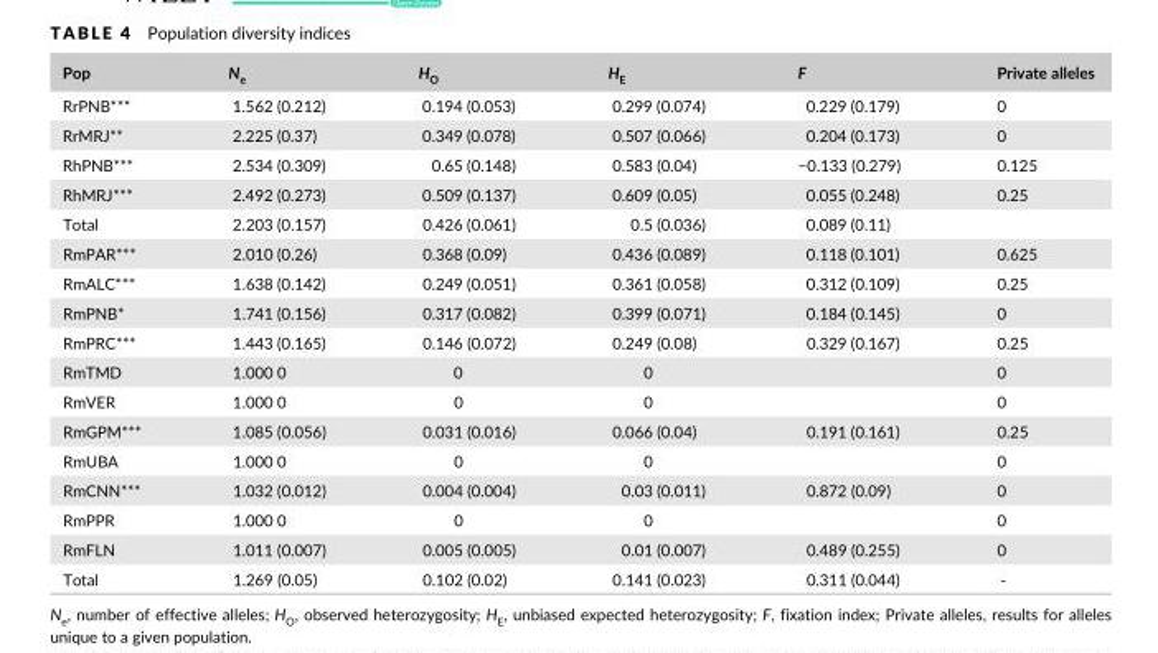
<table><thead><tr><td>Pop</td><td>N<sub>e</sub></td><td>H<sub>O</sub></td><td>H<sub>E</sub></td><td>F</td><td>Private alleles</td></tr></thead><tbody><tr><td>RrPNB***</td><td>1.562 (0.212)</td><td>0.194 (0.053)</td><td>0.299 (0.074)</td><td>0.229 (0.179)</td><td>0</td></tr><tr><td>RrMRJ**</td><td>2.225 (0.37)</td><td>0.349 (0.078)</td><td>0.507 (0.066)</td><td>0.204 (0.173)</td><td>0</td></tr><tr><td>RhPNB***</td><td>2.534 (0.309)</td><td>0.65 (0.148)</td><td>0.583 (0.04)</td><td>−0.133 (0.279)</td><td>0.125</td></tr><tr><td>RhMRJ***</td><td>2.492 (0.273)</td><td>0.509 (0.137)</td><td>0.609 (0.05)</td><td>0.055 (0.248)</td><td>0.25</td></tr><tr><td>Total</td><td>2.203 (0.157)</td><td>0.426 (0.061)</td><td>0.5 (0.036)</td><td>0.089 (0.11)</td><td></td></tr><tr><td>RmPAR***</td><td>2.010 (0.26)</td><td>0.368 (0.09)</td><td>0.436 (0.089)</td><td>0.118 (0.101)</td><td>0.625</td></tr><tr><td>RmALC***</td><td>1.638 (0.142)</td><td>0.249 (0.051)</td><td>0.361 (0.058)</td><td>0.312 (0.109)</td><td>0.25</td></tr><tr><td>RmPNB*</td><td>1.741 (0.156)</td><td>0.317 (0.082)</td><td>0.399 (0.071)</td><td>0.184 (0.145)</td><td>0</td></tr><tr><td>RmPRC***</td><td>1.443 (0.165)</td><td>0.146 (0.072)</td><td>0.249 (0.08)</td><td>0.329 (0.167)</td><td>0.25</td></tr><tr><td>RmTMD</td><td>1.000 0</td><td>0</td><td>0</td><td></td><td>0</td></tr><tr><td>RmVER</td><td>1.000 0</td><td>0</td><td>0</td><td></td><td>0</td></tr><tr><td>RmGPM***</td><td>1.085 (0.056)</td><td>0.031 (0.016)</td><td>0.066 (0.04)</td><td>0.191 (0.161)</td><td>0.25</td></tr><tr><td>RmUBA</td><td>1.000 0</td><td>0</td><td>0</td><td></td><td>0</td></tr><tr><td>RmCNN***</td><td>1.032 (0.012)</td><td>0.004 (0.004)</td><td>0.03 (0.011)</td><td>0.872 (0.09)</td><td>0</td></tr><tr><td>RmPPR</td><td>1.000 0</td><td>0</td><td>0</td><td></td><td>0</td></tr><tr><td>RmFLN</td><td>1.011 (0.007)</td><td>0.005 (0.005)</td><td>0.01 (0.007)</td><td>0.489 (0.255)</td><td>0</td></tr><tr><td>Total</td><td>1.269 (0.05)</td><td>0.102 (0.02)</td><td>0.141 (0.023)</td><td>0.311 (0.044)</td><td>-</td></tr></tbody></table>